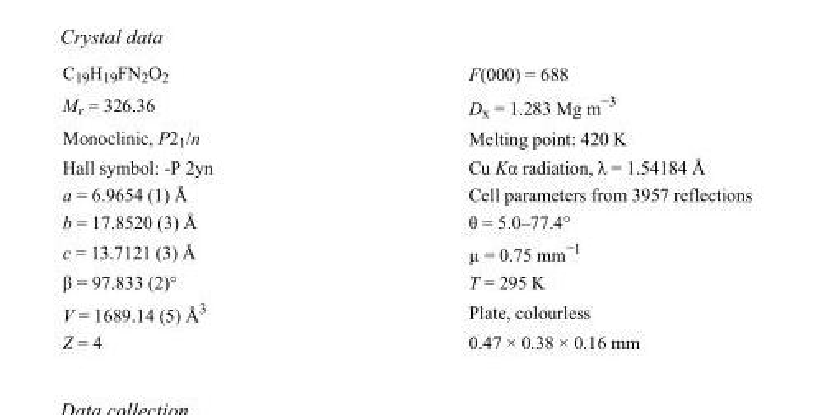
<table><tbody><tr><td>C<sub>19</sub>H<sub>19</sub>FN<sub>2</sub>O<sub>2</sub></td><td>F(000) = 688</td></tr><tr><td>M<sub>r</sub> = 326.36</td><td>D<sub>x</sub> = 1.283 Mg m<sup>−3</sup></td></tr><tr><td>Monoclinic, P2<sub>1</sub>/n</td><td>Melting point: 420 K</td></tr><tr><td>Hall symbol: -P 2yn</td><td>Cu Kα radiation, λ = 1.54184 Å</td></tr><tr><td>a = 6.9654 (1) Å</td><td>Cell parameters from 3957 reflections</td></tr><tr><td>b = 17.8520 (3) Å</td><td>θ = 5.0–77.4°</td></tr><tr><td>c = 13.7121 (3) Å</td><td>µ = 0.75 mm<sup>−1</sup></td></tr><tr><td>β = 97.833 (2)°</td><td>T = 295 K</td></tr><tr><td>V = 1689.14 (5) Å<sup>3</sup></td><td>Plate, colourless</td></tr><tr><td>Z = 4</td><td>0.47 × 0.38 × 0.16 mm</td></tr></tbody></table>